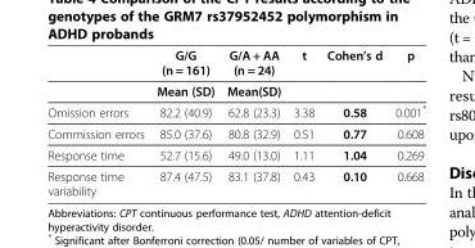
<table><thead><tr><td></td><td>G/G (n = 161)</td><td>G/A + AA (n = 24)</td><td>t</td><td>Cohen’s d</td><td>p</td></tr></thead><tbody><tr><td></td><td>Mean (SD)</td><td>Mean(SD)</td><td></td><td></td><td></td></tr><tr><td>Omission errors</td><td>82.2 (40.9)</td><td>62.8 (23.3)</td><td>3.38</td><td>0.58</td><td>0.001*</td></tr><tr><td>Commission errors</td><td>85.0 (37.6)</td><td>80.8 (32.9)</td><td>0.51</td><td>0.77</td><td>0.608</td></tr><tr><td>Response time</td><td>52.7 (15.6)</td><td>49.0 (13.0)</td><td>1.11</td><td>1.04</td><td>0.269</td></tr><tr><td>Response time variability</td><td>87.4 (47.5)</td><td>83.1 (37.8)</td><td>0.43</td><td>0.10</td><td>0.668</td></tr></tbody></table>